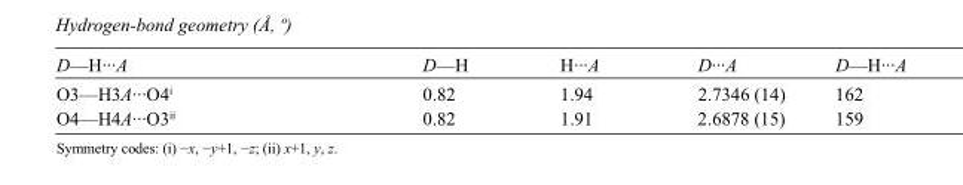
<table><tbody><tr><td>D—H···A</td><td>D—H</td><td>H···A</td><td>D···A</td><td>D—H···A</td></tr><tr><td>O3—H3A···O4<sup>i</sup></td><td>0.82</td><td>1.94</td><td>2.7346 (14)</td><td>162</td></tr><tr><td>O4—H4A···O3<sup>ii</sup></td><td>0.82</td><td>1.91</td><td>2.6878 (15)</td><td>159</td></tr></tbody></table>